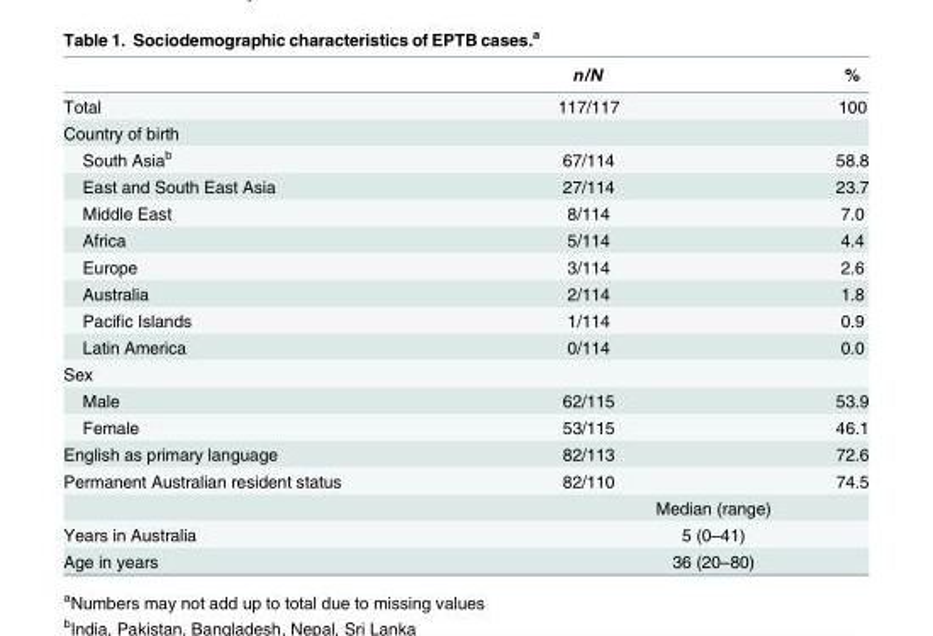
<table><thead><tr><td></td><td>n/N</td><td>%</td></tr></thead><tbody><tr><td>Total</td><td>117/117</td><td>100</td></tr><tr><td colspan="3">Country of birth</td></tr><tr><td>South Asia<sup>b</sup></td><td>67/114</td><td>58.8</td></tr><tr><td>East and South East Asia</td><td>27/114</td><td>23.7</td></tr><tr><td>Middle East</td><td>8/114</td><td>7.0</td></tr><tr><td>Africa</td><td>5/114</td><td>4.4</td></tr><tr><td>Europe</td><td>3/114</td><td>2.6</td></tr><tr><td>Australia</td><td>2/114</td><td>1.8</td></tr><tr><td>Pacific Islands</td><td>1/114</td><td>0.9</td></tr><tr><td>Latin America</td><td>0/114</td><td>0.0</td></tr><tr><td colspan="3">Sex</td></tr><tr><td>Male</td><td>62/115</td><td>53.9</td></tr><tr><td>Female</td><td>53/115</td><td>46.1</td></tr><tr><td>English as primary language</td><td>82/113</td><td>72.6</td></tr><tr><td rowspan="2">Permanent Australian resident status</td><td>82/110</td><td>74.5</td></tr><tr><td colspan="2">Median (range)</td></tr><tr><td>Years in Australia</td><td colspan="2">5 (0–41)</td></tr><tr><td>Age in years</td><td colspan="2">36 (20–80)</td></tr></tbody></table>